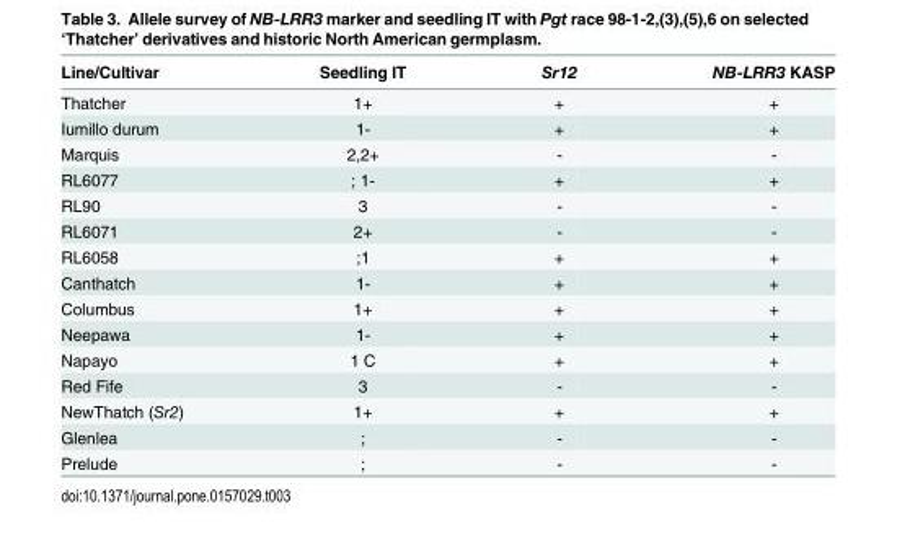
<table><thead><tr><td>Line/Cultivar</td><td>Seedling IT</td><td>Sr12</td><td>NB-LRR3 KASP</td></tr></thead><tbody><tr><td>Thatcher</td><td>1+</td><td>+</td><td>+</td></tr><tr><td>Iumillo durum</td><td>1-</td><td>+</td><td>+</td></tr><tr><td>Marquis</td><td>2,2+</td><td>-</td><td>-</td></tr><tr><td>RL6077</td><td>; 1-</td><td>+</td><td>+</td></tr><tr><td>RL90</td><td>3</td><td>-</td><td>-</td></tr><tr><td>RL6071</td><td>2+</td><td>-</td><td>-</td></tr><tr><td>RL6058</td><td>;1</td><td>+</td><td>+</td></tr><tr><td>Canthatch</td><td>1-</td><td>+</td><td>+</td></tr><tr><td>Columbus</td><td>1+</td><td>+</td><td>+</td></tr><tr><td>Neepawa</td><td>1-</td><td>+</td><td>+</td></tr><tr><td>Napayo</td><td>1 C</td><td>+</td><td>+</td></tr><tr><td>Red Fife</td><td>3</td><td>-</td><td>-</td></tr><tr><td>NewThatch (Sr2)</td><td>1+</td><td>+</td><td>+</td></tr><tr><td>Glenlea</td><td>;</td><td>-</td><td>-</td></tr><tr><td>Prelude</td><td>;</td><td>-</td><td>-</td></tr></tbody></table>